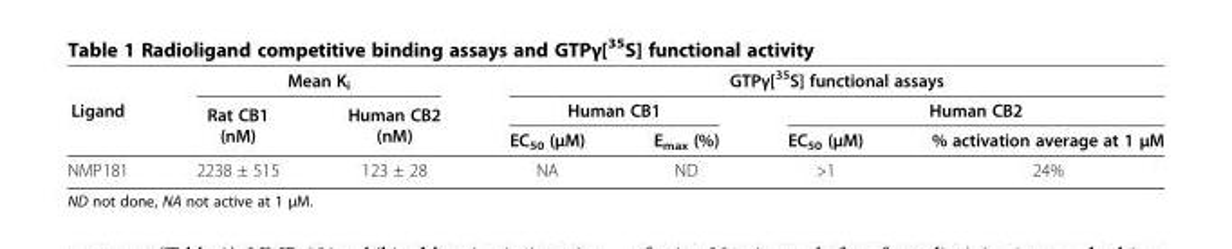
<table><thead><tr><td rowspan="3">Ligand</td><td colspan="2">Mean K<sub>i</sub></td><td colspan="4">GTPγ[<sup>35</sup>S] functional assays</td></tr><tr><td rowspan="2">Rat CB1 (nM)</td><td rowspan="2">Human CB2 (nM)</td><td colspan="2">Human CB1</td><td colspan="2">Human CB2</td></tr><tr><td>EC<sub>50</sub> (μM)</td><td>E<sub>max</sub> (%)</td><td>EC<sub>50</sub> (μM)</td><td>% activation average at 1 μM</td></tr></thead><tbody><tr><td>NMP181</td><td>2238 ± 515</td><td>123 ± 28</td><td>NA</td><td>ND</td><td>&gt;1</td><td>24%</td></tr></tbody></table>